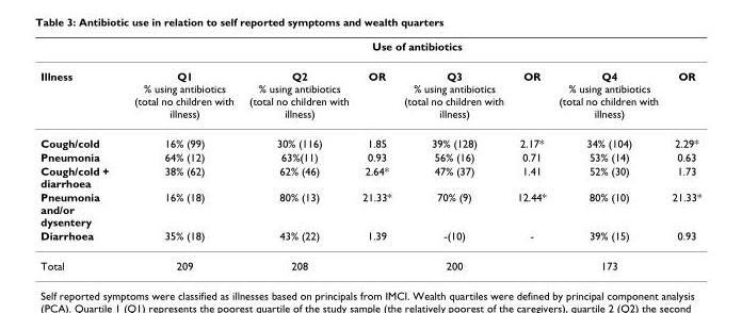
<table><thead><tr><td rowspan="2">Illness</td><td colspan="7">Use of antibiotics</td></tr><tr><td>Q1 % using antibiotics (total no children with illness)</td><td>Q2 % using antibiotics (total no children with illness)</td><td>OR</td><td>Q3 % using antibiotics (total no children with illness)</td><td>OR</td><td>Q4 % using antibiotics (total no children with illness)</td><td>OR</td></tr></thead><tbody><tr><td>Cough/cold</td><td>16% (99)</td><td>30% (116)</td><td>1.85</td><td>39% (128)</td><td>2.17*</td><td>34% (104)</td><td>2.29*</td></tr><tr><td>Pneumonia</td><td>64% (12)</td><td>63%(11)</td><td>0.93</td><td>56% (16)</td><td>0.71</td><td>53% (14)</td><td>0.63</td></tr><tr><td>Cough/cold + diarrhoea</td><td>38% (62)</td><td>62% (46)</td><td>2.64*</td><td>47% (37)</td><td>1.41</td><td>52% (30)</td><td>1.73</td></tr><tr><td>Pneumonia and/or dysentery</td><td>16% (18)</td><td>80% (13)</td><td>21.33*</td><td>70% (9)</td><td>12.44*</td><td>80% (10)</td><td>21.33*</td></tr><tr><td>Diarrhoea</td><td>35% (18)</td><td>43% (22)</td><td>1.39</td><td>-(10)</td><td>-</td><td>39% (15)</td><td>0.93</td></tr><tr><td>Total</td><td>209</td><td>208</td><td></td><td>200</td><td></td><td>173</td><td></td></tr></tbody></table>